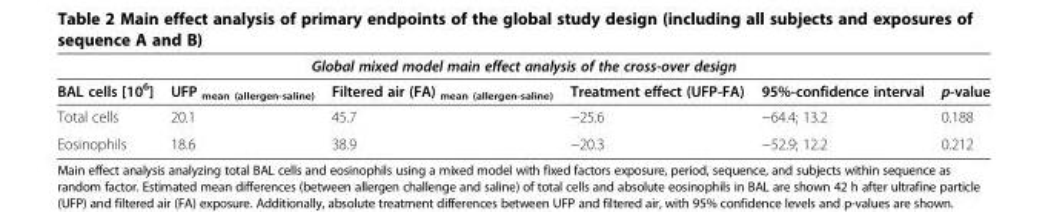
<table><thead><tr><td colspan="6">Global mixed model main effect analysis of the cross-over design</td></tr><tr><td>BAL cells [10<sup>6</sup>]</td><td>UFP <sub>mean (allergen-saline)</sub></td><td>Filtered air (FA) <sub>mean (allergen-saline)</sub></td><td>Treatment effect (UFP-FA)</td><td>95%-confidence interval</td><td>p-value</td></tr></thead><tbody><tr><td>Total cells</td><td>20.1</td><td>45.7</td><td>−25.6</td><td>−64.4; 13.2</td><td>0.188</td></tr><tr><td>Eosinophils</td><td>18.6</td><td>38.9</td><td>−20.3</td><td>−52.9; 12.2</td><td>0.212</td></tr></tbody></table>